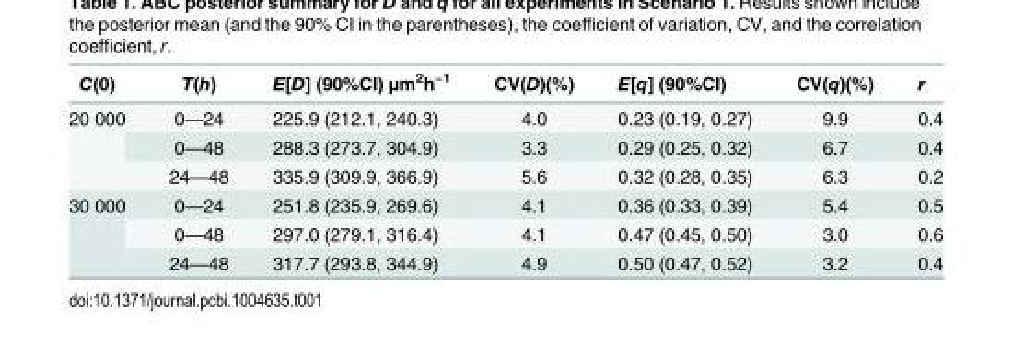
<table><thead><tr><td>C(0)</td><td>T(h)</td><td>E[D] (90%CI) µm<sup>2</sup>h<sup>−1</sup></td><td>CV(D)(%)</td><td>E[q] (90%CI)</td><td>CV(q)(%)</td><td>r</td></tr></thead><tbody><tr><td rowspan="3">20 000</td><td>0—24</td><td>225.9 (212.1, 240.3)</td><td>4.0</td><td>0.23 (0.19, 0.27)</td><td>9.9</td><td>0.4</td></tr><tr><td>0—48</td><td>288.3 (273.7, 304.9)</td><td>3.3</td><td>0.29 (0.25, 0.32)</td><td>6.7</td><td>0.4</td></tr><tr><td>24—48</td><td>335.9 (309.9, 366.9)</td><td>5.6</td><td>0.32 (0.28, 0.35)</td><td>6.3</td><td>0.2</td></tr><tr><td rowspan="3">30 000</td><td>0—24</td><td>251.8 (235.9, 269.6)</td><td>4.1</td><td>0.36 (0.33, 0.39)</td><td>5.4</td><td>0.5</td></tr><tr><td>0—48</td><td>297.0 (279.1, 316.4)</td><td>4.1</td><td>0.47 (0.45, 0.50)</td><td>3.0</td><td>0.6</td></tr><tr><td>24—48</td><td>317.7 (293.8, 344.9)</td><td>4.9</td><td>0.50 (0.47, 0.52)</td><td>3.2</td><td>0.4</td></tr></tbody></table>